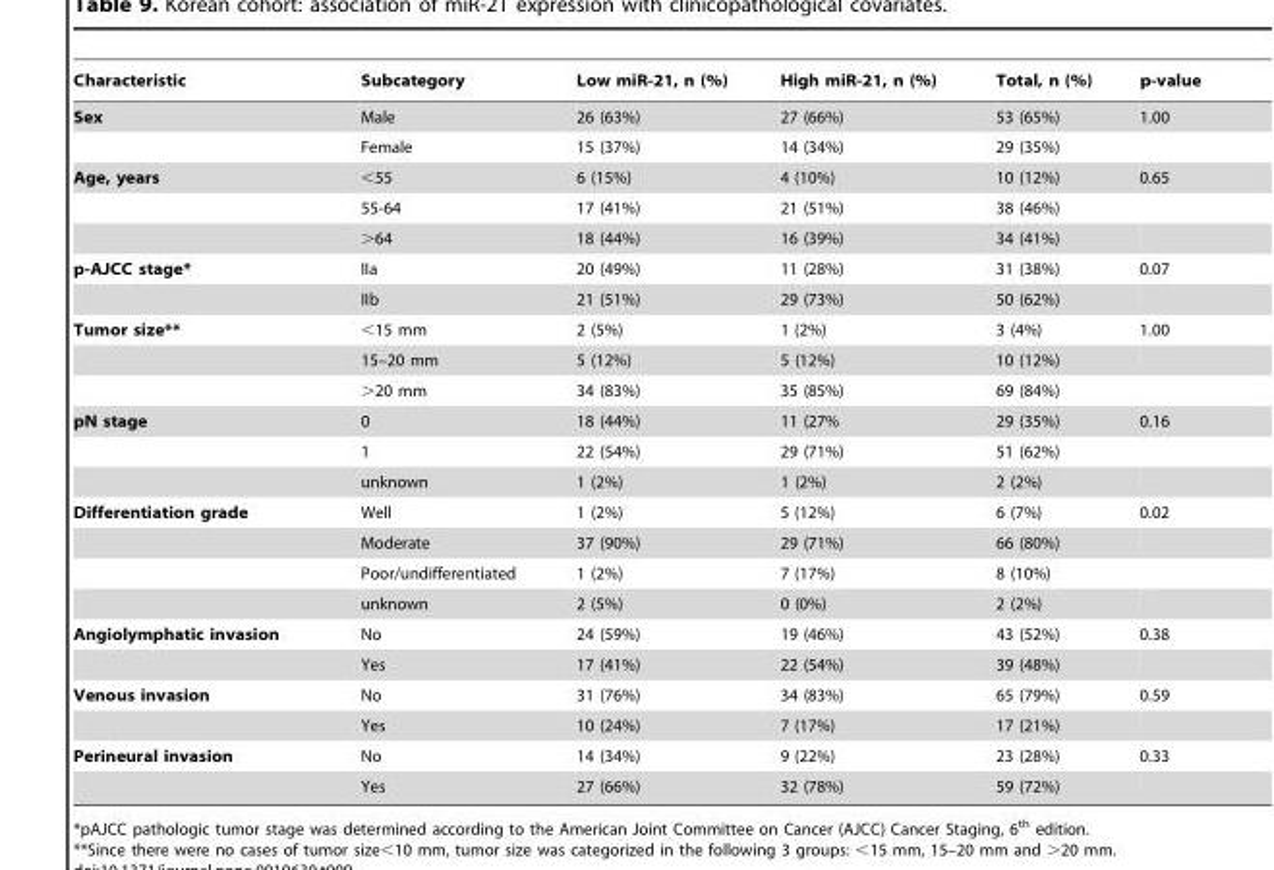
<table><thead><tr><td>Characteristic</td><td>Subcategory</td><td>Low miR-21, n (%)</td><td>High miR-21, n (%)</td><td>Total, n (%)</td><td>p-value</td></tr></thead><tbody><tr><td rowspan="2">Sex</td><td>Male</td><td>26 (63%)</td><td>27 (66%)</td><td>53 (65%)</td><td>1.00</td></tr><tr><td>Female</td><td>15 (37%)</td><td>14 (34%)</td><td>29 (35%)</td><td></td></tr><tr><td rowspan="3">Age, years</td><td>&lt;55</td><td>6 (15%)</td><td>4 (10%)</td><td>10 (12%)</td><td>0.65</td></tr><tr><td>55-64</td><td>17 (41%)</td><td>21 (51%)</td><td>38 (46%)</td><td></td></tr><tr><td>&gt;64</td><td>18 (44%)</td><td>16 (39%)</td><td>34 (41%)</td><td></td></tr><tr><td rowspan="2">p-AJCC stage*</td><td>IIa</td><td>20 (49%)</td><td>11 (28%)</td><td>31 (38%)</td><td>0.07</td></tr><tr><td>IIb</td><td>21 (51%)</td><td>29 (73%)</td><td>50 (62%)</td><td></td></tr><tr><td rowspan="3">Tumor size**</td><td>&lt;15 mm</td><td>2 (5%)</td><td>1 (2%)</td><td>3 (4%)</td><td>1.00</td></tr><tr><td>15–20 mm</td><td>5 (12%)</td><td>5 (12%)</td><td>10 (12%)</td><td></td></tr><tr><td>&gt;20 mm</td><td>34 (83%)</td><td>35 (85%)</td><td>69 (84%)</td><td></td></tr><tr><td rowspan="3">pN stage</td><td>0</td><td>18 (44%)</td><td>11 (27%</td><td>29 (35%)</td><td>0.16</td></tr><tr><td>1</td><td>22 (54%)</td><td>29 (71%)</td><td>51 (62%)</td><td></td></tr><tr><td>unknown</td><td>1 (2%)</td><td>1 (2%)</td><td>2 (2%)</td><td></td></tr><tr><td rowspan="4">Differentiation grade</td><td>Well</td><td>1 (2%)</td><td>5 (12%)</td><td>6 (7%)</td><td>0.02</td></tr><tr><td>Moderate</td><td>37 (90%)</td><td>29 (71%)</td><td>66 (80%)</td><td></td></tr><tr><td>Poor/undifferentiated</td><td>1 (2%)</td><td>7 (17%)</td><td>8 (10%)</td><td></td></tr><tr><td>unknown</td><td>2 (5%)</td><td>0 (0%)</td><td>2 (2%)</td><td></td></tr><tr><td rowspan="2">Angiolymphatic invasion</td><td>No</td><td>24 (59%)</td><td>19 (46%)</td><td>43 (52%)</td><td>0.38</td></tr><tr><td>Yes</td><td>17 (41%)</td><td>22 (54%)</td><td>39 (48%)</td><td></td></tr><tr><td rowspan="2">Venous invasion</td><td>No</td><td>31 (76%)</td><td>34 (83%)</td><td>65 (79%)</td><td>0.59</td></tr><tr><td>Yes</td><td>10 (24%)</td><td>7 (17%)</td><td>17 (21%)</td><td></td></tr><tr><td rowspan="2">Perineural invasion</td><td>No</td><td>14 (34%)</td><td>9 (22%)</td><td>23 (28%)</td><td>0.33</td></tr><tr><td>Yes</td><td>27 (66%)</td><td>32 (78%)</td><td>59 (72%)</td><td></td></tr></tbody></table>